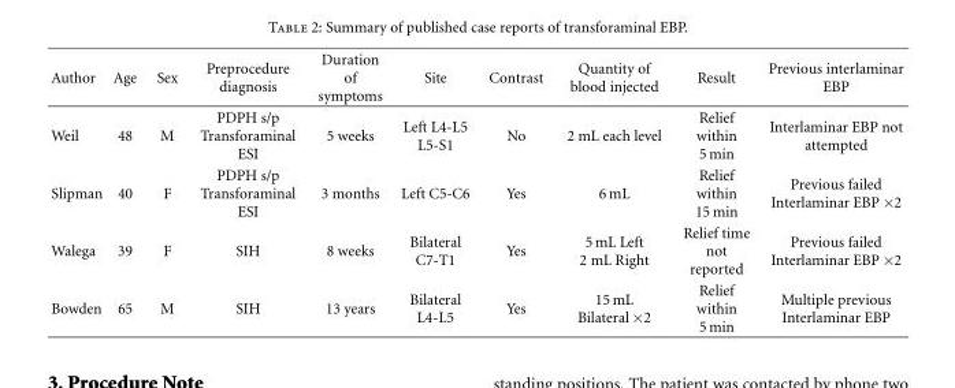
<table><thead><tr><td>Author</td><td>Age</td><td>Sex</td><td>Preprocedure diagnosis</td><td>Duration of symptoms</td><td>Site</td><td>Contrast</td><td>Quantity of blood injected</td><td>Result</td><td>Previous interlaminar EBP</td></tr></thead><tbody><tr><td>Weil</td><td>48</td><td>M</td><td>PDPH s/p Transforaminal ESI</td><td>5 weeks</td><td>Left L4-L5 L5-S1</td><td>No</td><td>2 mL each level</td><td>Relief within 5 min</td><td>Interlaminar EBP not attempted</td></tr><tr><td>Slipman</td><td>40</td><td>F</td><td>PDPH s/p Transforaminal ESI</td><td>3 months</td><td>Left C5-C6</td><td>Yes</td><td>6 mL</td><td>Relief within 15 min</td><td>Previous failed Interlaminar EBP ×2</td></tr><tr><td>Walega</td><td>39</td><td>F</td><td>SIH</td><td>8 weeks</td><td>Bilateral C7-T1</td><td>Yes</td><td>5 mL Left 2 mL Right</td><td>Relief time not reported</td><td>Previous failed Interlaminar EBP ×2</td></tr><tr><td>Bowden</td><td>65</td><td>M</td><td>SIH</td><td>13 years</td><td>Bilateral L4-L5</td><td>Yes</td><td>15 mL Bilateral ×2</td><td>Relief within 5 min</td><td>Multiple previous Interlaminar EBP</td></tr></tbody></table>